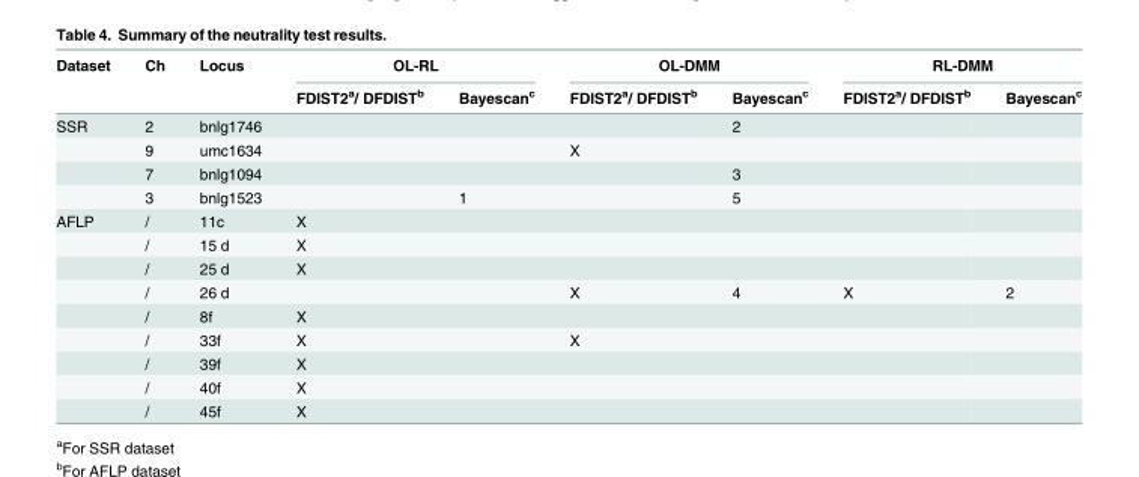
<table><thead><tr><td rowspan="2">Dataset</td><td rowspan="2">Ch</td><td rowspan="2">Locus</td><td colspan="2">OL-RL</td><td colspan="2">OL-DMM</td><td colspan="2">RL-DMM</td></tr><tr><td>FDIST2<sup>a</sup>/ DFDIST<sup>b</sup></td><td>Bayescan<sup>c</sup></td><td>FDIST2<sup>a</sup>/ DFDIST<sup>b</sup></td><td>Bayescan<sup>c</sup></td><td>FDIST2<sup>a</sup>/ DFDIST<sup>b</sup></td><td>Bayescan<sup>c</sup></td></tr></thead><tbody><tr><td rowspan="4">SSR</td><td>2</td><td>bnlg1746</td><td></td><td></td><td></td><td>2</td><td></td><td></td></tr><tr><td>9</td><td>umc1634</td><td></td><td></td><td>X</td><td></td><td></td><td></td></tr><tr><td>7</td><td>bnlg1094</td><td></td><td></td><td></td><td>3</td><td></td><td></td></tr><tr><td>3</td><td>bnlg1523</td><td></td><td>1</td><td></td><td>5</td><td></td><td></td></tr><tr><td rowspan="9">AFLP</td><td>/</td><td>11c</td><td>X</td><td></td><td></td><td></td><td></td><td></td></tr><tr><td>/</td><td>15 d</td><td>X</td><td></td><td></td><td></td><td></td><td></td></tr><tr><td>/</td><td>25 d</td><td>X</td><td></td><td></td><td></td><td></td><td></td></tr><tr><td>/</td><td>26 d</td><td></td><td></td><td>X</td><td>4</td><td>X</td><td>2</td></tr><tr><td>/</td><td>8f</td><td>X</td><td></td><td></td><td></td><td></td><td></td></tr><tr><td>/</td><td>33f</td><td>X</td><td></td><td>X</td><td></td><td></td><td></td></tr><tr><td>/</td><td>39f</td><td>X</td><td></td><td></td><td></td><td></td><td></td></tr><tr><td>/</td><td>40f</td><td>X</td><td></td><td></td><td></td><td></td><td></td></tr><tr><td>/</td><td>45f</td><td>X</td><td></td><td></td><td></td><td></td><td></td></tr></tbody></table>